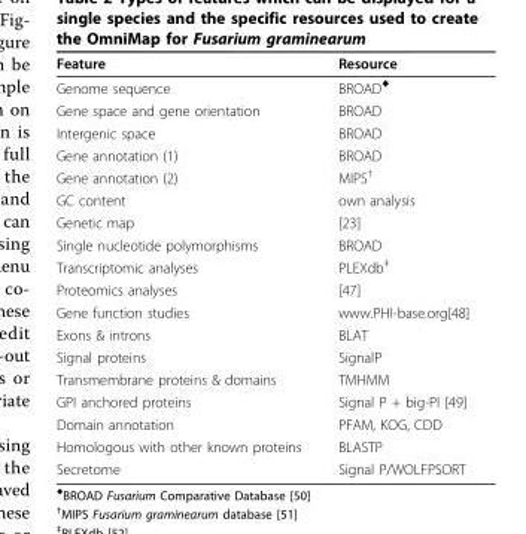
<table><thead><tr><td>Feature</td><td>Resource</td></tr></thead><tbody><tr><td>Genome sequence</td><td>BROAD<sup>♦</sup></td></tr><tr><td>Gene space and gene orientation</td><td>BROAD</td></tr><tr><td>Intergenic space</td><td>BROAD</td></tr><tr><td>Gene annotation (1)</td><td>BROAD</td></tr><tr><td>Gene annotation (2)</td><td>MIPS<sup>†</sup></td></tr><tr><td>GC content</td><td>own analysis</td></tr><tr><td>Genetic map</td><td>[23]</td></tr><tr><td>Single nucleotide polymorphisms</td><td>BROAD</td></tr><tr><td>Transcriptomic analyses</td><td>PLEXdb<sup>‡</sup></td></tr><tr><td>Proteomics analyses</td><td>[47]</td></tr><tr><td>Gene function studies</td><td>www.PHI-base.org[48]</td></tr><tr><td>Exons &amp; introns</td><td>BLAT</td></tr><tr><td>Signal proteins</td><td>SignalP</td></tr><tr><td>Transmembrane proteins &amp; domains</td><td>TMHMM</td></tr><tr><td>GPI anchored proteins</td><td>Signal P + big-PI [49]</td></tr><tr><td>Domain annotation</td><td>PFAM, KOG, CDD</td></tr><tr><td>Homologous with other known proteins</td><td>BLASTP</td></tr><tr><td>Secretome</td><td>Signal P/WOLFPSORT</td></tr></tbody></table>